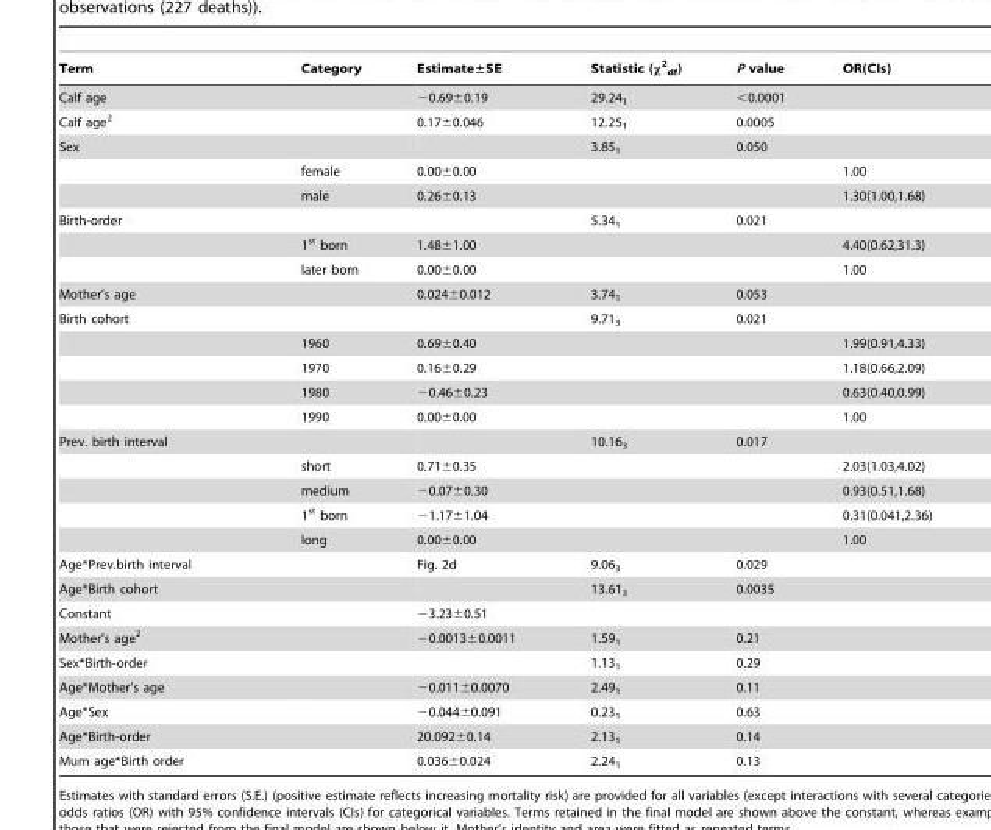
<table><thead><tr><td>Term</td><td>Category</td><td>Estimate±SE</td><td>Statistic (χ<sup>2</sup> <sub>df</sub>)</td><td>P value</td><td>OR(CIs)</td></tr></thead><tbody><tr><td>Calf age</td><td></td><td>−0.69±0.19</td><td>29.24<sub>1</sub></td><td>&lt;0.0001</td><td></td></tr><tr><td>Calf age<sup>2</sup></td><td></td><td>0.17±0.046</td><td>12.25<sub>1</sub></td><td>0.0005</td><td></td></tr><tr><td rowspan="3">Sex</td><td></td><td></td><td>3.85<sub>1</sub></td><td>0.050</td><td></td></tr><tr><td>female</td><td>0.00±0.00</td><td></td><td></td><td>1.00</td></tr><tr><td>male</td><td>0.26±0.13</td><td></td><td></td><td>1.30(1.00,1.68)</td></tr><tr><td rowspan="3">Birth-order</td><td></td><td></td><td>5.34<sub>1</sub></td><td>0.021</td><td></td></tr><tr><td>1<sup>st</sup> born</td><td>1.48±1.00</td><td></td><td></td><td>4.40(0.62,31.3)</td></tr><tr><td>later born</td><td>0.00±0.00</td><td></td><td></td><td>1.00</td></tr><tr><td>Mother’s age</td><td></td><td>0.024±0.012</td><td>3.74<sub>1</sub></td><td>0.053</td><td></td></tr><tr><td rowspan="5">Birth cohort</td><td></td><td></td><td>9.71<sub>3</sub></td><td>0.021</td><td></td></tr><tr><td>1960</td><td>0.69±0.40</td><td></td><td></td><td>1.99(0.91,4.33)</td></tr><tr><td>1970</td><td>0.16±0.29</td><td></td><td></td><td>1.18(0.66,2.09)</td></tr><tr><td>1980</td><td>−0.46±0.23</td><td></td><td></td><td>0.63(0.40,0.99)</td></tr><tr><td>1990</td><td>0.00±0.00</td><td></td><td></td><td>1.00</td></tr><tr><td rowspan="5">Prev. birth interval</td><td></td><td></td><td>10.16<sub>3</sub></td><td>0.017</td><td></td></tr><tr><td>short</td><td>0.71±0.35</td><td></td><td></td><td>2.03(1.03,4.02)</td></tr><tr><td>medium</td><td>−0.07±0.30</td><td></td><td></td><td>0.93(0.51,1.68)</td></tr><tr><td>1<sup>st</sup> born</td><td>−1.17±1.04</td><td></td><td></td><td>0.31(0.041,2.36)</td></tr><tr><td>long</td><td>0.00±0.00</td><td></td><td></td><td>1.00</td></tr><tr><td>Age*Prev.birth interval</td><td></td><td>Fig. 2d</td><td>9.06<sub>3</sub></td><td>0.029</td><td></td></tr><tr><td>Age*Birth cohort</td><td></td><td></td><td>13.61<sub>3</sub></td><td>0.0035</td><td></td></tr><tr><td>Constant</td><td></td><td>−3.23±0.51</td><td></td><td></td><td></td></tr><tr><td>Mother’s age<sup>2</sup></td><td></td><td>−0.0013±0.0011</td><td>1.59<sub>1</sub></td><td>0.21</td><td></td></tr><tr><td>Sex*Birth-order</td><td></td><td></td><td>1.13<sub>1</sub></td><td>0.29</td><td></td></tr><tr><td>Age*Mother’s age</td><td></td><td>−0.011±0.0070</td><td>2.49<sub>1</sub></td><td>0.11</td><td></td></tr><tr><td>Age*Sex</td><td></td><td>−0.044±0.091</td><td>0.23<sub>1</sub></td><td>0.63</td><td></td></tr><tr><td>Age*Birth-order</td><td></td><td>20.092±0.14</td><td>2.13<sub>1</sub></td><td>0.14</td><td></td></tr><tr><td>Mum age*Birth order</td><td></td><td>0.036±0.024</td><td>2.24<sub>1</sub></td><td>0.13</td><td></td></tr></tbody></table>